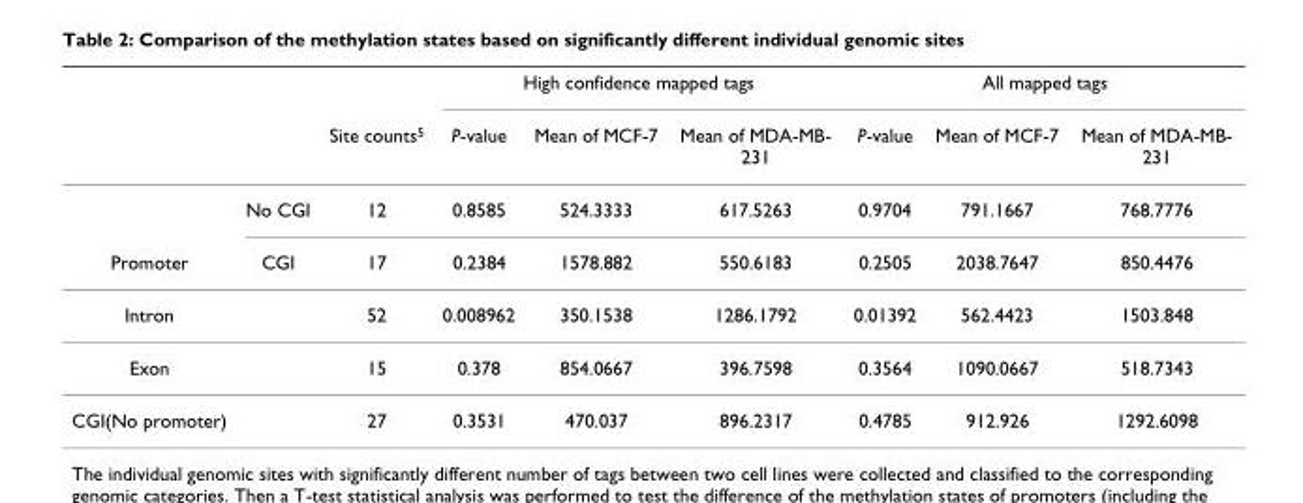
<table><thead><tr><td rowspan="2"></td><td rowspan="2"></td><td rowspan="2">Site counts<sup>5</sup></td><td colspan="3">High confidence mapped tags</td><td colspan="3">All mapped tags</td></tr><tr><td>P-value</td><td>Mean of MCF-7</td><td>Mean of MDA-MB- 231</td><td>P-value</td><td>Mean of MCF-7</td><td>Mean of MDA-MB- 231</td></tr></thead><tbody><tr><td></td><td>No CGI</td><td>12</td><td>0.8585</td><td>524.3333</td><td>617.5263</td><td>0.9704</td><td>791.1667</td><td>768.7776</td></tr><tr><td>Promoter</td><td>CGI</td><td>17</td><td>0.2384</td><td>1578.882</td><td>550.6183</td><td>0.2505</td><td>2038.7647</td><td>850.4476</td></tr><tr><td>Intron</td><td></td><td>52</td><td>0.008962</td><td>350.1538</td><td>1286.1792</td><td>0.01392</td><td>562.4423</td><td>1503.848</td></tr><tr><td>Exon</td><td></td><td>15</td><td>0.378</td><td>854.0667</td><td>396.7598</td><td>0.3564</td><td>1090.0667</td><td>518.7343</td></tr><tr><td>CGI(No promoter)</td><td></td><td>27</td><td>0.3531</td><td>470.037</td><td>896.2317</td><td>0.4785</td><td>912.926</td><td>1292.6098</td></tr></tbody></table>